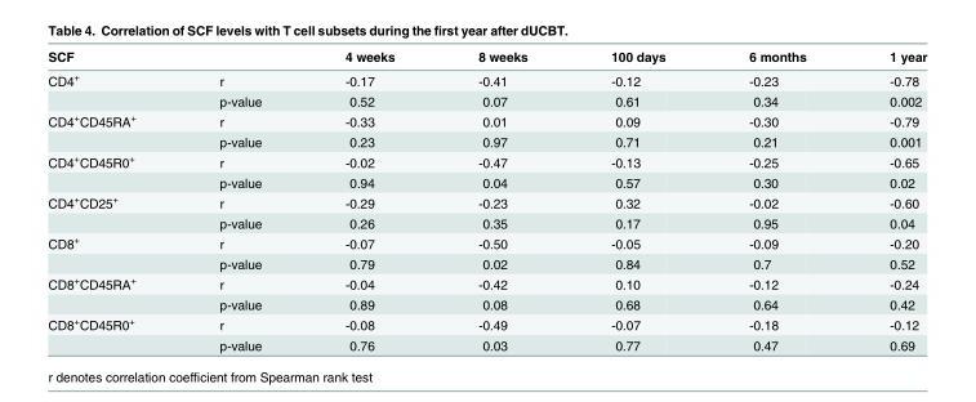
<table><thead><tr><td>SCF</td><td></td><td>4 weeks</td><td>8 weeks</td><td>100 days</td><td>6 months</td><td>1 year</td></tr></thead><tbody><tr><td rowspan="2">CD4<sup>+</sup></td><td>r</td><td>-0.17</td><td>-0.41</td><td>-0.12</td><td>-0.23</td><td>-0.78</td></tr><tr><td>p-value</td><td>0.52</td><td>0.07</td><td>0.61</td><td>0.34</td><td>0.002</td></tr><tr><td rowspan="2">CD4<sup>+</sup>CD45RA<sup>+</sup></td><td>r</td><td>-0.33</td><td>0.01</td><td>0.09</td><td>-0.30</td><td>-0.79</td></tr><tr><td>p-value</td><td>0.23</td><td>0.97</td><td>0.71</td><td>0.21</td><td>0.001</td></tr><tr><td rowspan="2">CD4<sup>+</sup>CD45R0<sup>+</sup></td><td>r</td><td>-0.02</td><td>-0.47</td><td>-0.13</td><td>-0.25</td><td>-0.65</td></tr><tr><td>p-value</td><td>0.94</td><td>0.04</td><td>0.57</td><td>0.30</td><td>0.02</td></tr><tr><td rowspan="2">CD4<sup>+</sup>CD25<sup>+</sup></td><td>r</td><td>-0.29</td><td>-0.23</td><td>0.32</td><td>-0.02</td><td>-0.60</td></tr><tr><td>p-value</td><td>0.26</td><td>0.35</td><td>0.17</td><td>0.95</td><td>0.04</td></tr><tr><td rowspan="2">CD8<sup>+</sup></td><td>r</td><td>-0.07</td><td>-0.50</td><td>-0.05</td><td>-0.09</td><td>-0.20</td></tr><tr><td>p-value</td><td>0.79</td><td>0.02</td><td>0.84</td><td>0.7</td><td>0.52</td></tr><tr><td rowspan="2">CD8<sup>+</sup>CD45RA<sup>+</sup></td><td>r</td><td>-0.04</td><td>-0.42</td><td>0.10</td><td>-0.12</td><td>-0.24</td></tr><tr><td>p-value</td><td>0.89</td><td>0.08</td><td>0.68</td><td>0.64</td><td>0.42</td></tr><tr><td rowspan="2">CD8<sup>+</sup>CD45R0<sup>+</sup></td><td>r</td><td>-0.08</td><td>-0.49</td><td>-0.07</td><td>-0.18</td><td>-0.12</td></tr><tr><td>p-value</td><td>0.76</td><td>0.03</td><td>0.77</td><td>0.47</td><td>0.69</td></tr></tbody></table>